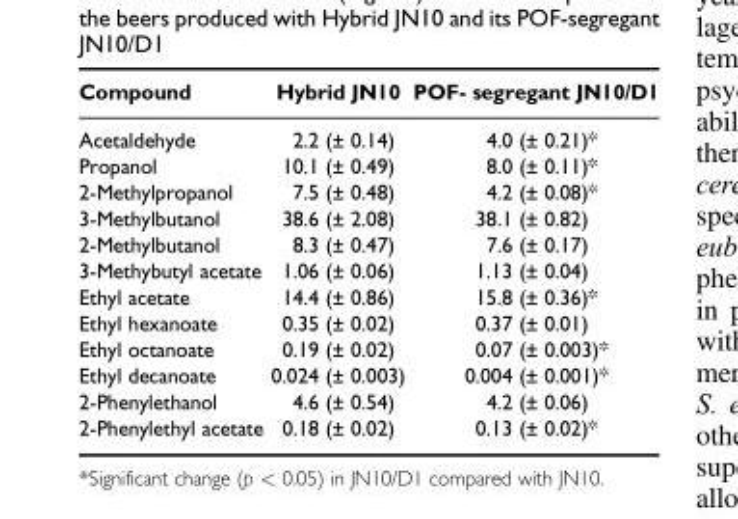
<table><thead><tr><td>Compound</td><td>Hybrid JN10</td><td>POF- segregant JN10/D1</td></tr></thead><tbody><tr><td>Acetaldehyde</td><td>2.2 (± 0.14)</td><td>4.0 (± 0.21)*</td></tr><tr><td>Propanol</td><td>10.1 (± 0.49)</td><td>8.0 (± 0.11)*</td></tr><tr><td>2-Methylpropanol</td><td>7.5 (± 0.48)</td><td>4.2 (± 0.08)*</td></tr><tr><td>3-Methylbutanol</td><td>38.6 (± 2.08)</td><td>38.1 (± 0.82)</td></tr><tr><td>2-Methylbutanol</td><td>8.3 (± 0.47)</td><td>7.6 (± 0.17)</td></tr><tr><td>3-Methybutyl acetate</td><td>1.06 (± 0.06)</td><td>1.13 (± 0.04)</td></tr><tr><td>Ethyl acetate</td><td>14.4 (± 0.86)</td><td>15.8 (± 0.36)*</td></tr><tr><td>Ethyl hexanoate</td><td>0.35 (± 0.02)</td><td>0.37 (± 0.01)</td></tr><tr><td>Ethyl octanoate</td><td>0.19 (± 0.02)</td><td>0.07 (± 0.003)*</td></tr><tr><td>Ethyl decanoate</td><td>0.024 (± 0.003)</td><td>0.004 (± 0.001)*</td></tr><tr><td>2-Phenylethanol</td><td>4.6 (± 0.54)</td><td>4.2 (± 0.06)</td></tr><tr><td>2-Phenylethyl acetate</td><td>0.18 (± 0.02)</td><td>0.13 (± 0.02)*</td></tr></tbody></table>